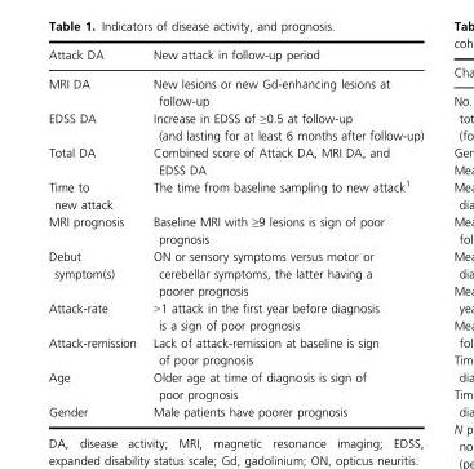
<table><thead><tr><td>Attack DA</td><td>New attack in follow-up period</td></tr></thead><tbody><tr><td>MRI DA</td><td>New lesions or new Gd-enhancing lesions at follow-up</td></tr><tr><td>EDSS DA</td><td>Increase in EDSS of ≥0.5 at follow-up (and lasting for at least 6 months after follow-up)</td></tr><tr><td>Total DA</td><td>Combined score of Attack DA, MRI DA, and EDSS DA</td></tr><tr><td>Time to new attack</td><td>The time from baseline sampling to new attack1</td></tr><tr><td>MRI prognosis</td><td>Baseline MRI with ≥9 lesions is sign of poor prognosis</td></tr><tr><td>Debut symptom(s)</td><td>ON or sensory symptoms versus motor or cerebellar symptoms, the latter having a poorer prognosis</td></tr><tr><td>Attack-rate</td><td>&gt;1 attack in the first year before diagnosis is a sign of poor prognosis</td></tr><tr><td>Attack-remission</td><td>Lack of attack-remission at baseline is sign of poor prognosis</td></tr><tr><td>Age</td><td>Older age at time of diagnosis is sign of poor prognosis</td></tr><tr><td>Gender</td><td>Male patients have poorer prognosis</td></tr></tbody></table>